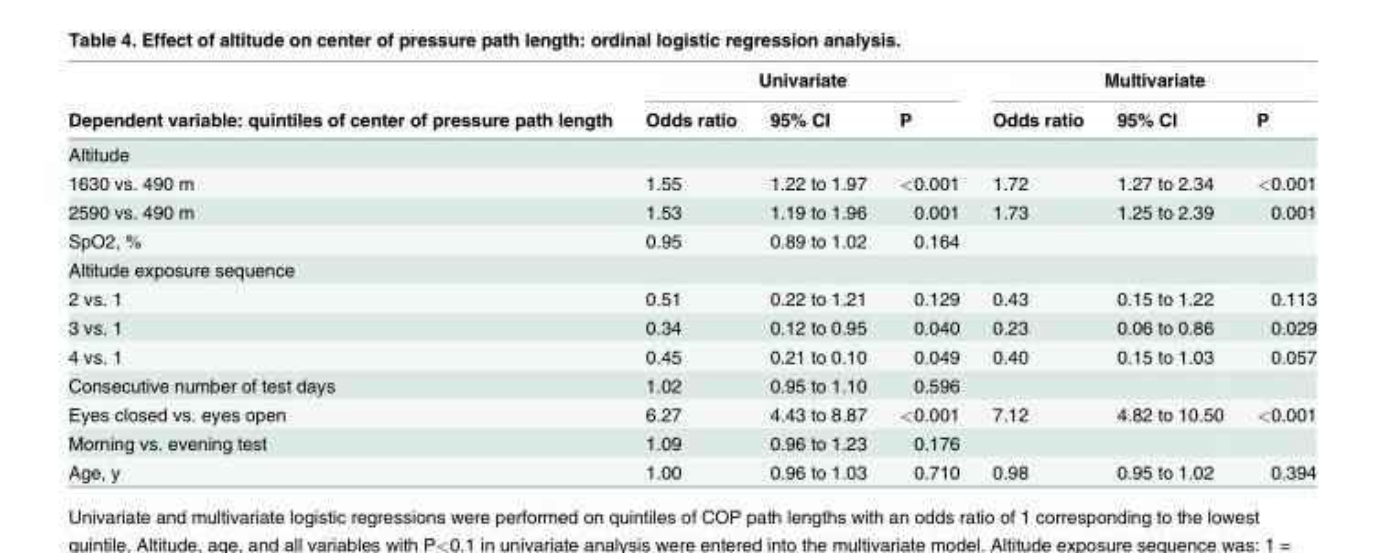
<table><thead><tr><td rowspan="2">Dependent variable: quintiles of center of pressure path length</td><td colspan="3">Univariate</td><td colspan="3">Multivariate</td></tr><tr><td>Odds ratio</td><td>95% CI</td><td>P</td><td>Odds ratio</td><td>95% CI</td><td>P</td></tr></thead><tbody><tr><td colspan="7">Altitude</td></tr><tr><td>1630 vs. 490 m</td><td>1.55</td><td>1.22 to 1.97</td><td>&lt;0.001</td><td>1.72</td><td>1.27 to 2.34</td><td>&lt;0.001</td></tr><tr><td>2590 vs. 490 m</td><td>1.53</td><td>1.19 to 1.96</td><td>0.001</td><td>1.73</td><td>1.25 to 2.39</td><td>0.001</td></tr><tr><td>SpO2, %</td><td>0.95</td><td>0.89 to 1.02</td><td>0.164</td><td></td><td></td><td></td></tr><tr><td colspan="7">Altitude exposure sequence</td></tr><tr><td>2 vs. 1</td><td>0.51</td><td>0.22 to 1.21</td><td>0.129</td><td>0.43</td><td>0.15 to 1.22</td><td>0.113</td></tr><tr><td>3 vs. 1</td><td>0.34</td><td>0.12 to 0.95</td><td>0.040</td><td>0.23</td><td>0.06 to 0.86</td><td>0.029</td></tr><tr><td>4 vs. 1</td><td>0.45</td><td>0.21 to 0.10</td><td>0.049</td><td>0.40</td><td>0.15 to 1.03</td><td>0.057</td></tr><tr><td>Consecutive number of test days</td><td>1.02</td><td>0.95 to 1.10</td><td>0.596</td><td></td><td></td><td></td></tr><tr><td>Eyes closed vs. eyes open</td><td>6.27</td><td>4.43 to 8.87</td><td>&lt;0.001</td><td>7.12</td><td>4.82 to 10.50</td><td>&lt;0.001</td></tr><tr><td>Morning vs. evening test</td><td>1.09</td><td>0.96 to 1.23</td><td>0.176</td><td></td><td></td><td></td></tr><tr><td>Age, y</td><td>1.00</td><td>0.96 to 1.03</td><td>0.710</td><td>0.98</td><td>0.95 to 1.02</td><td>0.394</td></tr></tbody></table>